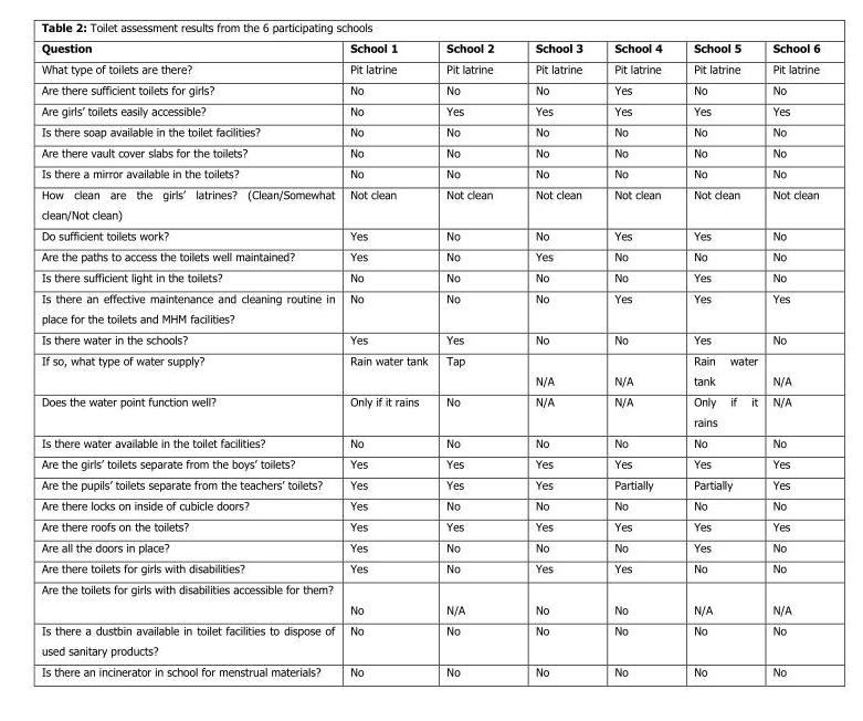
<table><thead><tr><td>Question</td><td>School 1</td><td>School 2</td><td>School 3</td><td>School 4</td><td>School 5</td><td>School 6</td></tr></thead><tbody><tr><td>What type of toilets are there?</td><td>Pit latrine</td><td>Pit latrine</td><td>Pit latrine</td><td>Pit latrine</td><td>Pit latrine</td><td>Pit latrine</td></tr><tr><td>Are there sufficient toilets for girls?</td><td>No</td><td>No</td><td>No</td><td>Yes</td><td>No</td><td>No</td></tr><tr><td>Are girls’ toilets easily accessible?</td><td>No</td><td>Yes</td><td>Yes</td><td>Yes</td><td>Yes</td><td>Yes</td></tr><tr><td>Is there soap available in the toilet facilities?</td><td>No</td><td>No</td><td>No</td><td>No</td><td>No</td><td>No</td></tr><tr><td>Are there vault cover slabs for the toilets?</td><td>No</td><td>No</td><td>No</td><td>No</td><td>No</td><td>No</td></tr><tr><td>Is there a mirror available in the toilets?</td><td>No</td><td>No</td><td>No</td><td>No</td><td>No</td><td>No</td></tr><tr><td>How clean are the girls’ latrines? (Clean/Somewhat clean/Not clean)</td><td>Not clean</td><td>Not clean</td><td>Not clean</td><td>Not clean</td><td>Not clean</td><td>Not clean</td></tr><tr><td>Do sufficient toilets work?</td><td>Yes</td><td>No</td><td>No</td><td>Yes</td><td>Yes</td><td>No</td></tr><tr><td>Are the paths to access the toilets well maintained?</td><td>Yes</td><td>No</td><td>Yes</td><td>No</td><td>No</td><td>No</td></tr><tr><td>Is there sufficient light in the toilets?</td><td>No</td><td>No</td><td>No</td><td>No</td><td>Yes</td><td>No</td></tr><tr><td>Is there an effective maintenance and cleaning routine in place for the toilets and MHM facilities?</td><td>No</td><td>No</td><td>No</td><td>Yes</td><td>Yes</td><td>Yes</td></tr><tr><td>Is there water in the schools?</td><td>Yes</td><td>Yes</td><td>No</td><td>No</td><td>Yes</td><td>No</td></tr><tr><td>If so, what type of water supply?</td><td>Rain water tank</td><td>Tap</td><td>N/A</td><td>N/A</td><td>Rain water tank</td><td>N/A</td></tr><tr><td>Does the water point function well?</td><td>Only if it rains</td><td>No</td><td>N/A</td><td>N/A</td><td>Only if it rains</td><td>N/A</td></tr><tr><td>Is there water available in the toilet facilities?</td><td>No</td><td>No</td><td>No</td><td>No</td><td>No</td><td>No</td></tr><tr><td>Are the girls’ toilets separate from the boys’ toilets?</td><td>Yes</td><td>Yes</td><td>Yes</td><td>Yes</td><td>Yes</td><td>Yes</td></tr><tr><td>Are the pupils’ toilets separate from the teachers’ toilets?</td><td>Yes</td><td>Yes</td><td>Yes</td><td>Partially</td><td>Partially</td><td>Yes</td></tr><tr><td>Are there locks on inside of cubicle doors?</td><td>Yes</td><td>No</td><td>No</td><td>No</td><td>No</td><td>No</td></tr><tr><td>Are there roofs on the toilets?</td><td>Yes</td><td>Yes</td><td>Yes</td><td>Yes</td><td>Yes</td><td>Yes</td></tr><tr><td>Are all the doors in place?</td><td>Yes</td><td>No</td><td>No</td><td>No</td><td>Yes</td><td>No</td></tr><tr><td>Are there toilets for girls with disabilities?</td><td>Yes</td><td>No</td><td>Yes</td><td>Yes</td><td>No</td><td>No</td></tr><tr><td>Are the toilets for girls with disabilities accessible for them?</td><td>No</td><td>N/A</td><td>No</td><td>No</td><td>N/A</td><td>N/A</td></tr><tr><td>Is there a dustbin available in toilet facilities to dispose of used sanitary products?</td><td>No</td><td>No</td><td>No</td><td>No</td><td>No</td><td>No</td></tr><tr><td>Is there an incinerator in school for menstrual materials?</td><td>No</td><td>No</td><td>No</td><td>No</td><td>No</td><td>No</td></tr></tbody></table>